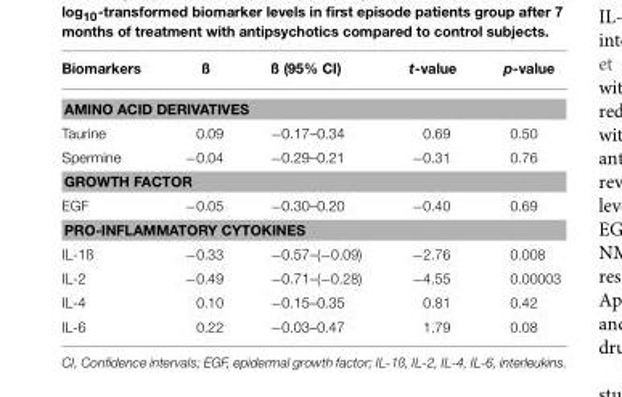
<table><thead><tr><td>Biomarkers</td><td>ß</td><td>ß (95% CI)</td><td>t-value</td><td>p-value</td></tr></thead><tbody><tr><td colspan="5">AMINO ACID DERIVATIVES</td></tr><tr><td>Taurine</td><td>0.09</td><td>−0.17–0.34</td><td>0.69</td><td>0.50</td></tr><tr><td>Spermine</td><td>−0.04</td><td>−0.29–0.21</td><td>−0.31</td><td>0.76</td></tr><tr><td colspan="5">GROWTH FACTOR</td></tr><tr><td>EGF</td><td>−0.05</td><td>−0.30–0.20</td><td>−0.40</td><td>0.69</td></tr><tr><td colspan="5">PRO-INFLAMMATORY CYTOKINES</td></tr><tr><td>IL-1ß</td><td>−0.33</td><td>−0.57–(−0.09)</td><td>−2.76</td><td>0.008</td></tr><tr><td>IL-2</td><td>−0.49</td><td>−0.71–(−0.28)</td><td>−4.55</td><td>0.00003</td></tr><tr><td>IL-4</td><td>0.10</td><td>−0.15–0.35</td><td>0.81</td><td>0.42</td></tr><tr><td>IL-6</td><td>0.22</td><td>−0.03–0.47</td><td>1.79</td><td>0.08</td></tr></tbody></table>